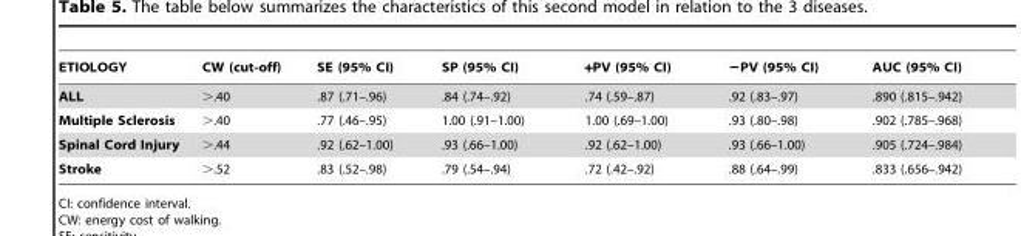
<table><thead><tr><td>ETIOLOGY</td><td>CW (cut-off)</td><td>SE (95% CI)</td><td>SP (95% CI)</td><td>+PV (95% CI)</td><td>−PV (95% CI)</td><td>AUC (95% CI)</td></tr></thead><tbody><tr><td>ALL</td><td>&gt;.40</td><td>.87 (.71–.96)</td><td>.84 (.74–.92)</td><td>.74 (.59–.87)</td><td>.92 (.83–.97)</td><td>.890 (.815–.942)</td></tr><tr><td>Multiple Sclerosis</td><td>&gt;.40</td><td>.77 (.46–.95)</td><td>1.00 (.91–1.00)</td><td>1.00 (.69–1.00)</td><td>.93 (.80–.98)</td><td>.902 (.785–.968)</td></tr><tr><td>Spinal Cord Injury</td><td>&gt;.44</td><td>.92 (.62–1.00)</td><td>.93 (.66–1.00)</td><td>.92 (.62–1.00)</td><td>.93 (.66–1.00)</td><td>.905 (.724–.984)</td></tr><tr><td>Stroke</td><td>&gt;.52</td><td>.83 (.52–.98)</td><td>.79 (.54–.94)</td><td>.72 (.42–.92)</td><td>.88 (.64–.99)</td><td>.833 (.656–.942)</td></tr></tbody></table>